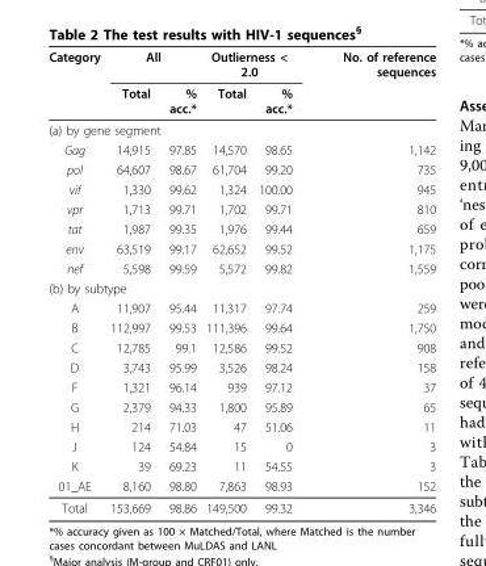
<table><thead><tr><td rowspan="2">Category</td><td colspan="2">All</td><td colspan="2">Outlierness &lt; 2.0</td><td rowspan="2">No. of reference sequences</td></tr><tr><td>Total</td><td>% acc.*</td><td>Total</td><td>% acc.*</td></tr></thead><tbody><tr><td colspan="6">(a) by gene segment</td></tr><tr><td>Gag</td><td>14,915</td><td>97.85</td><td>14,570</td><td>98.65</td><td>1,142</td></tr><tr><td>pol</td><td>64,607</td><td>98.67</td><td>61,704</td><td>99.20</td><td>735</td></tr><tr><td>vif</td><td>1,330</td><td>99.62</td><td>1,324</td><td>100.00</td><td>945</td></tr><tr><td>vpr</td><td>1,713</td><td>99.71</td><td>1,702</td><td>99.71</td><td>810</td></tr><tr><td>tat</td><td>1,987</td><td>99.35</td><td>1,976</td><td>99.44</td><td>659</td></tr><tr><td>env</td><td>63,519</td><td>99.17</td><td>62,652</td><td>99.52</td><td>1,175</td></tr><tr><td>nef</td><td>5,598</td><td>99.59</td><td>5,572</td><td>99.82</td><td>1,559</td></tr><tr><td colspan="6">(b) by subtype</td></tr><tr><td>A</td><td>11,907</td><td>95.44</td><td>11,317</td><td>97.74</td><td>259</td></tr><tr><td>B</td><td>112,997</td><td>99.53</td><td>111,396</td><td>99.64</td><td>1,750</td></tr><tr><td>C</td><td>12,785</td><td>99.1</td><td>12,586</td><td>99.52</td><td>908</td></tr><tr><td>D</td><td>3,743</td><td>95.99</td><td>3,526</td><td>98.24</td><td>158</td></tr><tr><td>F</td><td>1,321</td><td>96.14</td><td>939</td><td>97.12</td><td>37</td></tr><tr><td>G</td><td>2,379</td><td>94.33</td><td>1,800</td><td>95.89</td><td>65</td></tr><tr><td>H</td><td>214</td><td>71.03</td><td>47</td><td>51.06</td><td>11</td></tr><tr><td>J</td><td>124</td><td>54.84</td><td>15</td><td>0</td><td>3</td></tr><tr><td>K</td><td>39</td><td>69.23</td><td>11</td><td>54.55</td><td>3</td></tr><tr><td>01_AE</td><td>8,160</td><td>98.80</td><td>7,863</td><td>98.93</td><td>152</td></tr><tr><td>Total</td><td>153,669</td><td>98.86</td><td>149,500</td><td>99.32</td><td>3,346</td></tr></tbody></table>